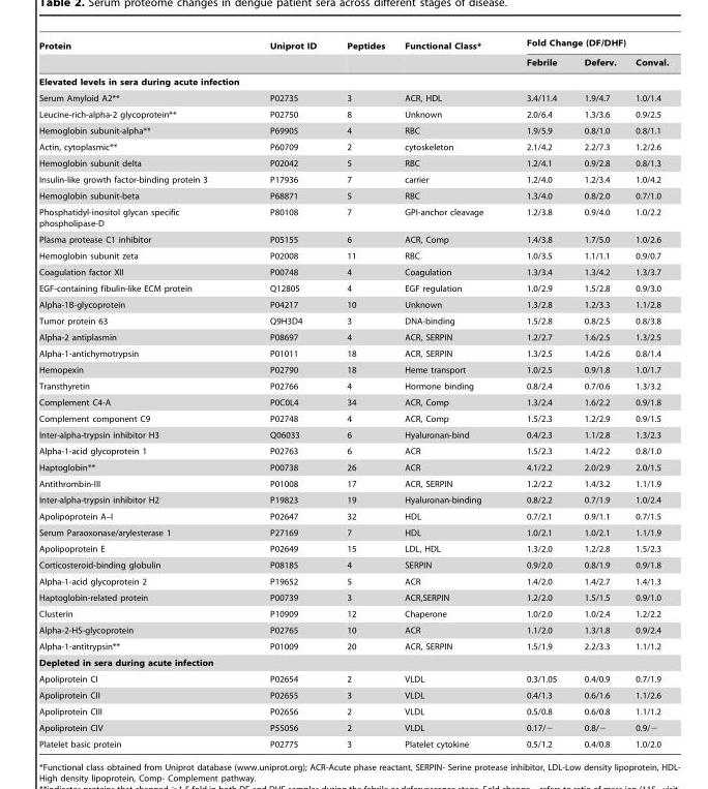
<table><thead><tr><td rowspan="2">Protein</td><td rowspan="2">Uniprot ID</td><td rowspan="2">Peptides</td><td rowspan="2">Functional Class*</td><td colspan="3">Fold Change (DF/DHF)</td></tr><tr><td>Febrile</td><td>Deferv.</td><td>Conval.</td></tr></thead><tbody><tr><td colspan="7">Elevated levels in sera during acute infection</td></tr><tr><td>Serum Amyloid A2**</td><td>P02735</td><td>3</td><td>ACR, HDL</td><td>3.4/11.4</td><td>1.9/4.7</td><td>1.0/1.4</td></tr><tr><td>Leucine-rich-alpha-2 glycoprotein**</td><td>P02750</td><td>8</td><td>Unknown</td><td>2.0/6.4</td><td>1.3/3.6</td><td>0.9/2.5</td></tr><tr><td>Hemoglobin subunit-alpha**</td><td>P69905</td><td>4</td><td>RBC</td><td>1.9/5.9</td><td>0.8/1.0</td><td>0.8/1.1</td></tr><tr><td>Actin, cytoplasmic**</td><td>P60709</td><td>2</td><td>cytoskeleton</td><td>2.1/4.2</td><td>2.2/7.3</td><td>1.2/2.6</td></tr><tr><td>Hemoglobin subunit delta</td><td>P02042</td><td>5</td><td>RBC</td><td>1.2/4.1</td><td>0.9/2.8</td><td>0.8/1.3</td></tr><tr><td>Insulin-like growth factor-binding protein 3</td><td>P17936</td><td>7</td><td>carrier</td><td>1.2/4.0</td><td>1.2/3.4</td><td>1.0/4.2</td></tr><tr><td>Hemoglobin subunit-beta</td><td>P68871</td><td>5</td><td>RBC</td><td>1.3/4.0</td><td>0.8/2.0</td><td>0.7/1.0</td></tr><tr><td>Phosphatidyl-inositol glycan specific phospholipase-D</td><td>P80108</td><td>7</td><td>GPI-anchor cleavage</td><td>1.2/3.8</td><td>0.9/4.0</td><td>1.0/2.2</td></tr><tr><td>Plasma protease C1 inhibitor</td><td>P05155</td><td>6</td><td>ACR, Comp</td><td>1.4/3.8</td><td>1.7/5.0</td><td>1.0/2.6</td></tr><tr><td>Hemoglobin subunit zeta</td><td>P02008</td><td>11</td><td>RBC</td><td>1.0/3.5</td><td>1.1/1.1</td><td>0.9/0.7</td></tr><tr><td>Coagulation factor XII</td><td>P00748</td><td>4</td><td>Coagulation</td><td>1.3/3.4</td><td>1.3/4.2</td><td>1.3/3.7</td></tr><tr><td>EGF-containing fibulin-like ECM protein</td><td>Q12805</td><td>4</td><td>EGF regulation</td><td>1.0/2.9</td><td>1.5/2.8</td><td>0.9/3.0</td></tr><tr><td>Alpha-1B-glycoprotein</td><td>P04217</td><td>10</td><td>Unknown</td><td>1.3/2.8</td><td>1.2/3.3</td><td>1.1/2.8</td></tr><tr><td>Tumor protein 63</td><td>Q9H3D4</td><td>3</td><td>DNA-binding</td><td>1.5/2.8</td><td>0.8/2.5</td><td>0.8/3.8</td></tr><tr><td>Alpha-2 antiplasmin</td><td>P08697</td><td>4</td><td>ACR, SERPIN</td><td>1.2/2.7</td><td>1.6/2.5</td><td>1.3/2.5</td></tr><tr><td>Alpha-1-antichymotrypsin</td><td>P01011</td><td>18</td><td>ACR, SERPIN</td><td>1.3/2.5</td><td>1.4/2.6</td><td>0.8/1.4</td></tr><tr><td>Hemopexin</td><td>P02790</td><td>18</td><td>Heme transport</td><td>1.0/2.5</td><td>0.9/1.8</td><td>1.0/1.7</td></tr><tr><td>Transthyretin</td><td>P02766</td><td>4</td><td>Hormone binding</td><td>0.8/2.4</td><td>0.7/0.6</td><td>1.3/3.2</td></tr><tr><td>Complement C4-A</td><td>P0C0L4</td><td>34</td><td>ACR, Comp</td><td>1.3/2.4</td><td>1.6/2.2</td><td>0.9/1.8</td></tr><tr><td>Complement component C9</td><td>P02748</td><td>4</td><td>ACR, Comp</td><td>1.5/2.3</td><td>1.2/2.9</td><td>0.9/1.5</td></tr><tr><td>Inter-alpha-trypsin inhibitor H3</td><td>Q06033</td><td>6</td><td>Hyaluronan-bind</td><td>0.4/2.3</td><td>1.1/2.8</td><td>1.3/2.3</td></tr><tr><td>Alpha-1-acid glycoprotein 1</td><td>P02763</td><td>6</td><td>ACR</td><td>1.5/2.3</td><td>1.4/2.2</td><td>0.8/1.0</td></tr><tr><td>Haptoglobin**</td><td>P00738</td><td>26</td><td>ACR</td><td>4.1/2.2</td><td>2.0/2.9</td><td>2.0/1.5</td></tr><tr><td>Antithrombin-III</td><td>P01008</td><td>17</td><td>ACR, SERPIN</td><td>1.2/2.2</td><td>1.4/3.2</td><td>1.1/1.9</td></tr><tr><td>Inter-alpha-trypsin inhibitor H2</td><td>P19823</td><td>19</td><td>Hyaluronan-binding</td><td>0.8/2.2</td><td>0.7/1.9</td><td>1.0/2.4</td></tr><tr><td>Apolipoprotein A–I</td><td>P02647</td><td>32</td><td>HDL</td><td>0.7/2.1</td><td>0.9/1.1</td><td>0.7/1.5</td></tr><tr><td>Serum Paraoxonase/arylesterase 1</td><td>P27169</td><td>7</td><td>HDL</td><td>1.0/2.1</td><td>1.0/2.1</td><td>1.1/1.9</td></tr><tr><td>Apolipoprotein E</td><td>P02649</td><td>15</td><td>LDL, HDL</td><td>1.3/2.0</td><td>1.2/2.8</td><td>1.5/2.3</td></tr><tr><td>Corticosteroid-binding globulin</td><td>P08185</td><td>4</td><td>SERPIN</td><td>0.9/2.0</td><td>0.8/1.9</td><td>0.9/1.8</td></tr><tr><td>Alpha-1-acid glycoprotein 2</td><td>P19652</td><td>5</td><td>ACR</td><td>1.4/2.0</td><td>1.4/2.7</td><td>1.4/1.3</td></tr><tr><td>Haptoglobin-related protein</td><td>P00739</td><td>3</td><td>ACR,SERPIN</td><td>1.2/2.0</td><td>1.5/1.5</td><td>0.9/1.0</td></tr><tr><td>Clusterin</td><td>P10909</td><td>12</td><td>Chaperone</td><td>1.0/2.0</td><td>1.0/2.4</td><td>1.2/2.2</td></tr><tr><td>Alpha-2-HS-glycoprotein</td><td>P02765</td><td>10</td><td>ACR</td><td>1.1/2.0</td><td>1.3/1.8</td><td>0.9/2.4</td></tr><tr><td>Alpha-1-antitrypsin**</td><td>P01009</td><td>20</td><td>ACR, SERPIN</td><td>1.5/1.9</td><td>2.2/3.3</td><td>1.1/1.2</td></tr><tr><td colspan="7">Depleted in sera during acute infection</td></tr><tr><td>Apoliprotein CI</td><td>P02654</td><td>2</td><td>VLDL</td><td>0.3/1.05</td><td>0.4/0.9</td><td>0.7/1.9</td></tr><tr><td>Apoliprotein CII</td><td>P02655</td><td>3</td><td>VLDL</td><td>0.4/1.3</td><td>0.6/1.6</td><td>1.1/2.6</td></tr><tr><td>Apoliprotein CIII</td><td>P02656</td><td>2</td><td>VLDL</td><td>0.5/0.8</td><td>0.6/0.8</td><td>1.1/1.2</td></tr><tr><td>Apoliprotein CIV</td><td>P55056</td><td>2</td><td>VLDL</td><td>0.17/−</td><td>0.8/−</td><td>0.9/−</td></tr><tr><td>Platelet basic protein</td><td>P02775</td><td>3</td><td>Platelet cytokine</td><td>0.5/1.2</td><td>0.4/0.8</td><td>1.0/2.0</td></tr></tbody></table>